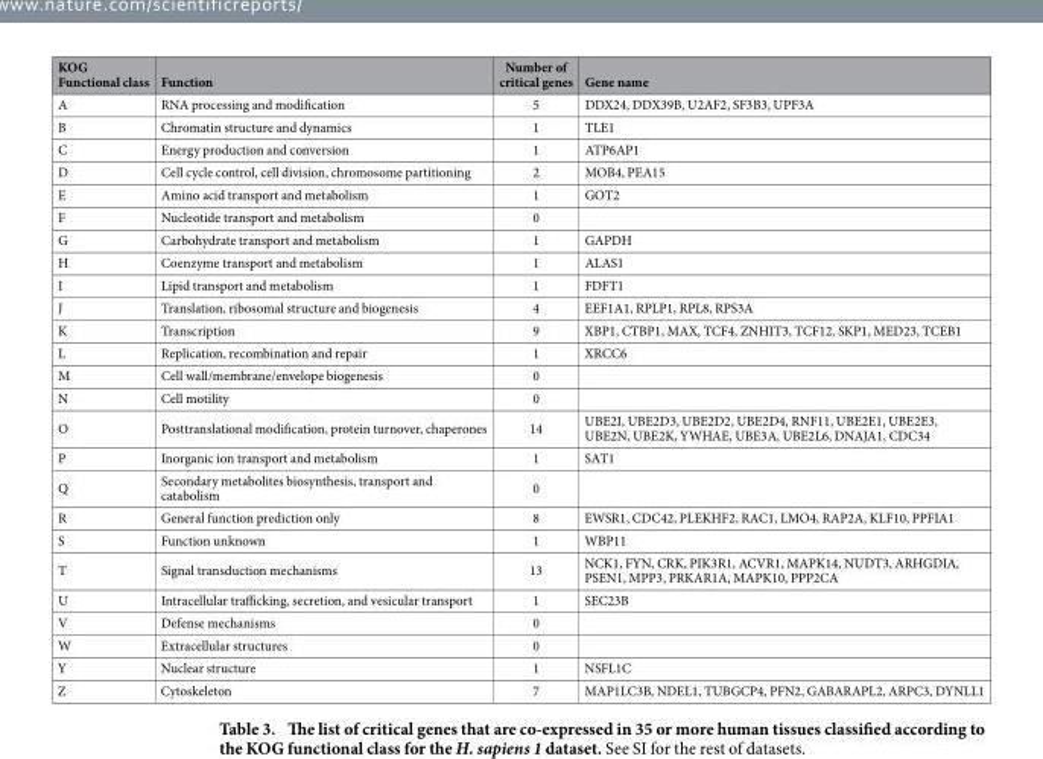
<table><thead><tr><td>KOG Functional class</td><td>Function</td><td>Number of critical genes</td><td>Gene name</td></tr></thead><tbody><tr><td>A</td><td>RNA processing and modification</td><td>5</td><td>DDX24, DDX39B, U2AF2, SF3B3, UPF3A</td></tr><tr><td>B</td><td>Chromatin structure and dynamics</td><td>1</td><td>TLE1</td></tr><tr><td>C</td><td>Energy production and conversion</td><td>1</td><td>ATP6AP1</td></tr><tr><td>D</td><td>Cell cycle control, cell division, chromosome partitioning</td><td>2</td><td>MOB4, PEA15</td></tr><tr><td>E</td><td>Amino acid transport and metabolism</td><td>1</td><td>GOT2</td></tr><tr><td>F</td><td>Nucleotide transport and metabolism</td><td>0</td><td></td></tr><tr><td>G</td><td>Carbohydrate transport and metabolism</td><td>1</td><td>GAPDH</td></tr><tr><td>H</td><td>Coenzyme transport and metabolism</td><td>1</td><td>ALAS1</td></tr><tr><td>I</td><td>Lipid transport and metabolism</td><td>1</td><td>FDFT1</td></tr><tr><td>J</td><td>Translation, ribosomal structure and biogenesis</td><td>4</td><td>EEF1A1, RPLP1, RPL8, RPS3A</td></tr><tr><td>K</td><td>Transcription</td><td>9</td><td>XBP1, CTBP1, MAX, TCF4, ZNHIT3, TCF12, SKP1, MED23, TCEB1</td></tr><tr><td>L</td><td>Replication, recombination and repair</td><td>1</td><td>XRCC6</td></tr><tr><td>M</td><td>Cell wall/membrane/envelope biogenesis</td><td>0</td><td></td></tr><tr><td>N</td><td>Cell motility</td><td>0</td><td></td></tr><tr><td>O</td><td>Posttranslational modification, protein turnover, chaperones</td><td>14</td><td>UBE2I, UBE2D3, UBE2D2, UBE2D4, RNF11, UBE2E1, UBE2E3, UBE2N, UBE2K, YWHAE, UBE3A, UBE2L6, DNAJA1, CDC34</td></tr><tr><td>P</td><td>Inorganic ion transport and metabolism</td><td>1</td><td>SAT1</td></tr><tr><td>Q</td><td>Secondary metabolites biosynthesis, transport and catabolism</td><td>0</td><td></td></tr><tr><td>R</td><td>General function prediction only</td><td>8</td><td>EWSR1, CDC42, PLEKHF2, RAC1, LMO4, RAP2A, KLF10, PPFIA1</td></tr><tr><td>S</td><td>Function unknown</td><td>1</td><td>WBP11</td></tr><tr><td>T</td><td>Signal transduction mechanisms</td><td>13</td><td>NCK1, FYN, CRK, PIK3R1, ACVR1, MAPK14, NUDT3, ARHGDIA, PSEN1, MPP3, PRKAR1A, MAPK10, PPP2CA</td></tr><tr><td>U</td><td>Intracellular trafficking, secretion, and vesicular transport</td><td>1</td><td>SEC23B</td></tr><tr><td>V</td><td>Defense mechanisms</td><td>0</td><td></td></tr><tr><td>W</td><td>Extracellular structures</td><td>0</td><td></td></tr><tr><td>Y</td><td>Nuclear structure</td><td>1</td><td>NSFL1C</td></tr><tr><td>Z</td><td>Cytoskeleton</td><td>7</td><td>MAP1LC3B, NDEL1, TUBGCP4, PFN2, GABARAPL2, ARPC3, DYNLL1</td></tr></tbody></table>